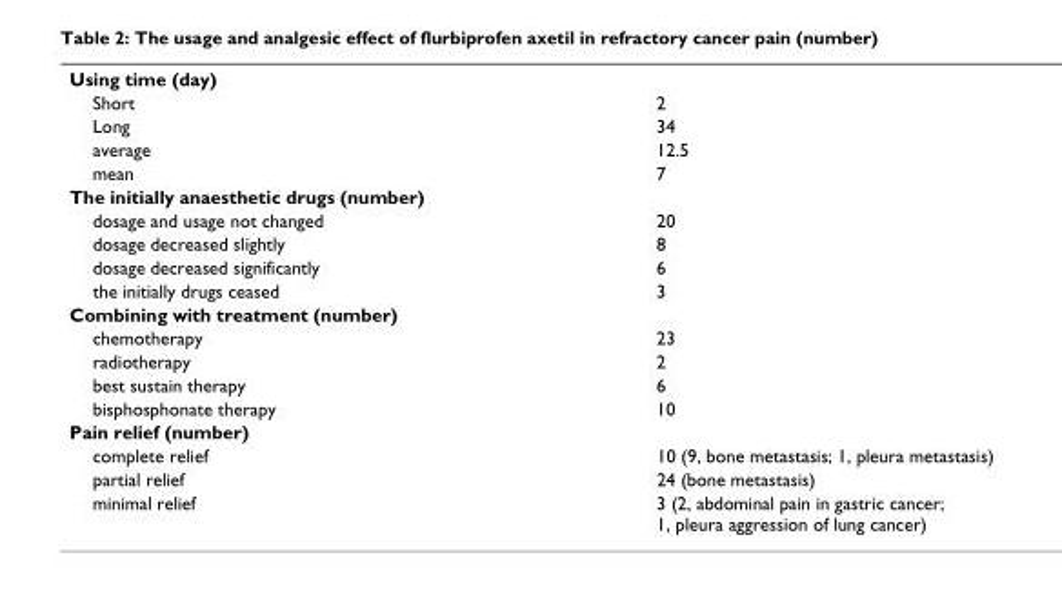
<table><tbody><tr><td colspan="2">Using time (day)</td></tr><tr><td>Short</td><td>2</td></tr><tr><td>Long</td><td>34</td></tr><tr><td>average</td><td>12.5</td></tr><tr><td>mean</td><td>7</td></tr><tr><td colspan="2">The initially anaesthetic drugs (number)</td></tr><tr><td>dosage and usage not changed</td><td>20</td></tr><tr><td>dosage decreased slightly</td><td>8</td></tr><tr><td>dosage decreased significantly</td><td>6</td></tr><tr><td>the initially drugs ceased</td><td>3</td></tr><tr><td colspan="2">Combining with treatment (number)</td></tr><tr><td>chemotherapy</td><td>23</td></tr><tr><td>radiotherapy</td><td>2</td></tr><tr><td>best sustain therapy</td><td>6</td></tr><tr><td>bisphosphonate therapy</td><td>10</td></tr><tr><td colspan="2">Pain relief (number)</td></tr><tr><td>complete relief</td><td>10 (9, bone metastasis; 1, pleura metastasis)</td></tr><tr><td>partial relief</td><td>24 (bone metastasis)</td></tr><tr><td>minimal relief</td><td>3 (2, abdominal pain in gastric cancer; 1, pleura aggression of lung cancer)</td></tr></tbody></table>